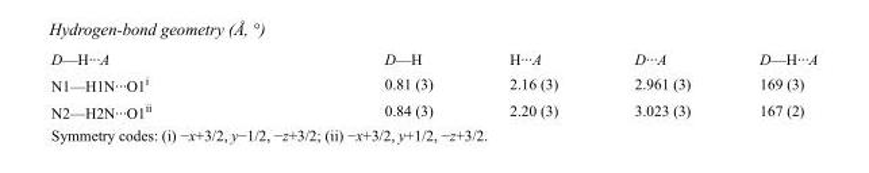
<table><tbody><tr><td>D—H···A</td><td>D—H</td><td>H···A</td><td>D···A</td><td>D—H···A</td></tr><tr><td>N1—H1N···O1<sup>i</sup></td><td>0.81 (3)</td><td>2.16 (3)</td><td>2.961 (3)</td><td>169 (3)</td></tr><tr><td>N2—H2N···O1<sup>ii</sup></td><td>0.84 (3)</td><td>2.20 (3)</td><td>3.023 (3)</td><td>167 (2)</td></tr></tbody></table>